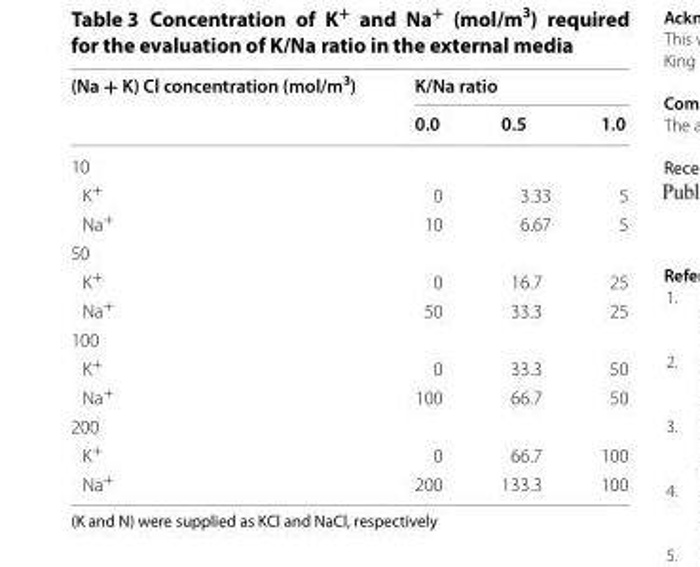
<table><thead><tr><td rowspan="2">(Na + K) Cl concentration (mol/m<sup>3</sup>)</td><td colspan="3">K/Na ratio</td></tr><tr><td>0.0</td><td>0.5</td><td>1.0</td></tr></thead><tbody><tr><td colspan="4">10</td></tr><tr><td>K<sup>+</sup></td><td>0</td><td>3.33</td><td>5</td></tr><tr><td>Na<sup>+</sup></td><td>10</td><td>6.67</td><td>5</td></tr><tr><td colspan="4">50</td></tr><tr><td>K<sup>+</sup></td><td>0</td><td>16.7</td><td>25</td></tr><tr><td>Na<sup>+</sup></td><td>50</td><td>33.3</td><td>25</td></tr><tr><td colspan="4">100</td></tr><tr><td>K<sup>+</sup></td><td>0</td><td>33.3</td><td>50</td></tr><tr><td>Na<sup>+</sup></td><td>100</td><td>66.7</td><td>50</td></tr><tr><td colspan="4">200</td></tr><tr><td>K<sup>+</sup></td><td>0</td><td>66.7</td><td>100</td></tr><tr><td>Na<sup>+</sup></td><td>200</td><td>133.3</td><td>100</td></tr></tbody></table>